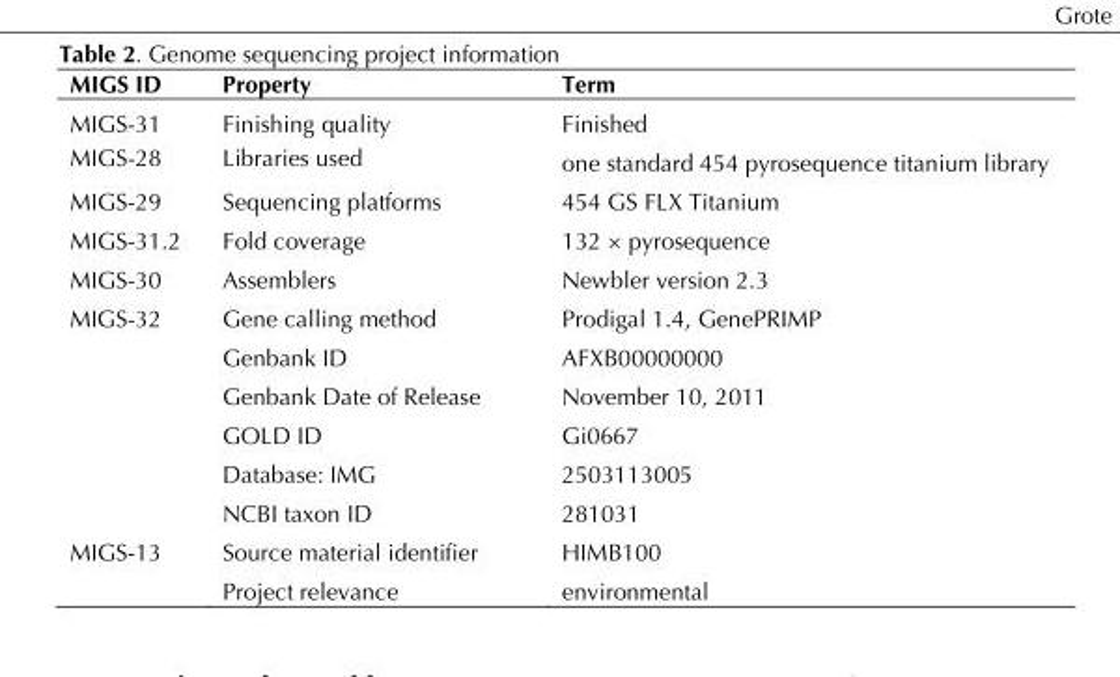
<table><thead><tr><td>MIGS ID</td><td>Property</td><td>Term</td></tr></thead><tbody><tr><td>MIGS-31</td><td>Finishing quality</td><td>Finished</td></tr><tr><td>MIGS-28</td><td>Libraries used</td><td>one standard 454 pyrosequence titanium library</td></tr><tr><td>MIGS-29</td><td>Sequencing platforms</td><td>454 GS FLX Titanium</td></tr><tr><td>MIGS-31.2</td><td>Fold coverage</td><td>132 × pyrosequence</td></tr><tr><td>MIGS-30</td><td>Assemblers</td><td>Newbler version 2.3</td></tr><tr><td rowspan="6">MIGS-32</td><td>Gene calling method</td><td>Prodigal 1.4, GenePRIMP</td></tr><tr><td>Genbank ID</td><td>AFXB00000000</td></tr><tr><td>Genbank Date of Release</td><td>November 10, 2011</td></tr><tr><td>GOLD ID</td><td>Gi0667</td></tr><tr><td>Database: IMG</td><td>2503113005</td></tr><tr><td>NCBI taxon ID</td><td>281031</td></tr><tr><td rowspan="2">MIGS-13</td><td>Source material identifier</td><td>HIMB100</td></tr><tr><td>Project relevance</td><td>environmental</td></tr></tbody></table>